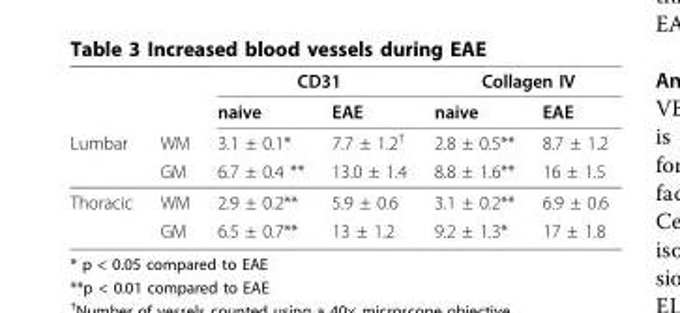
<table><thead><tr><td rowspan="4">Lumbar</td><td rowspan="4">WM GM</td><td colspan="2">CD31</td><td colspan="2">Collagen IV</td></tr><tr><td rowspan="3">naive 3.1 ± 0.1* 6.7 ± 0.4 **</td><td rowspan="3">EAE 7.7 ± 1.2<sup>†</sup> 13.0 ± 1.4</td><td rowspan="3">naive 2.8 ± 0.5** 8.8 ± 1.6**</td><td rowspan="3">EAE 8.7 ± 1.2 16 ± 1.5</td></tr><tr></tr><tr></tr></thead><tbody><tr><td rowspan="2">Thoracic</td><td>WM</td><td>2.9 ± 0.2**</td><td>5.9 ± 0.6</td><td>3.1 ± 0.2**</td><td>6.9 ± 0.6</td></tr><tr><td>GM</td><td>6.5 ± 0.7**</td><td>13 ± 1.2</td><td>9.2 ± 1.3*</td><td>17 ± 1.8</td></tr></tbody></table>